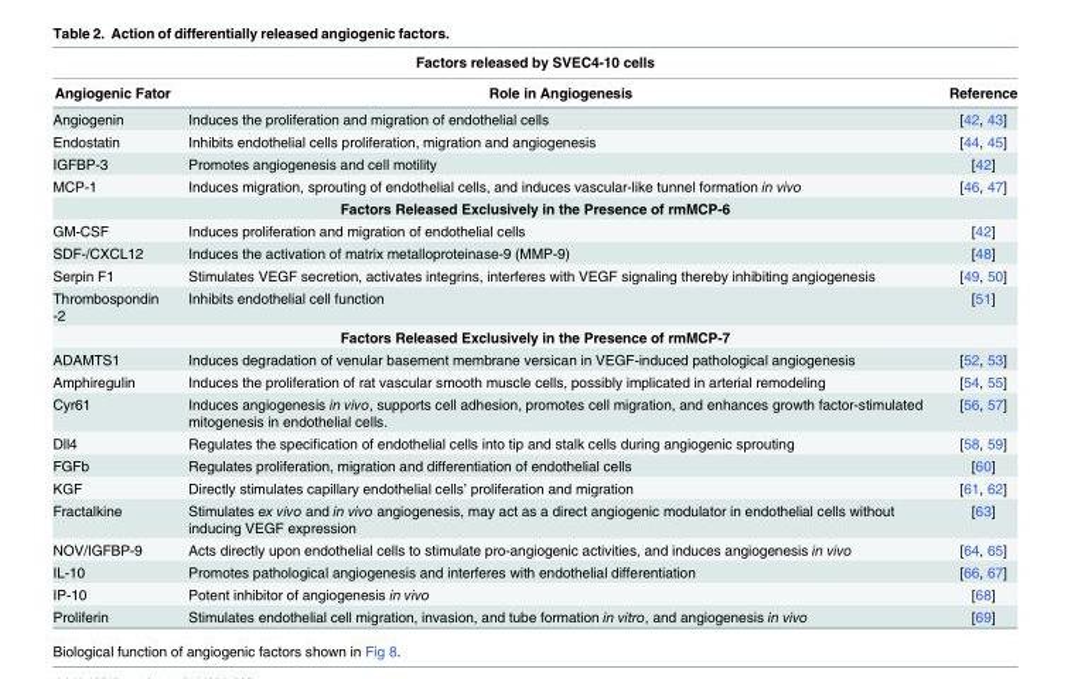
<table><thead><tr><td colspan="3">Factors released by SVEC4-10 cells</td></tr><tr><td>Angiogenic Fator</td><td>Role in Angiogenesis</td><td>Reference</td></tr></thead><tbody><tr><td>Angiogenin</td><td>Induces the proliferation and migration of endothelial cells</td><td>[42, 43]</td></tr><tr><td>Endostatin</td><td>Inhibits endothelial cells proliferation, migration and angiogenesis</td><td>[44, 45]</td></tr><tr><td>IGFBP-3</td><td>Promotes angiogenesis and cell motility</td><td>[42]</td></tr><tr><td>MCP-1</td><td>Induces migration, sprouting of endothelial cells, and induces vascular-like tunnel formation in vivo</td><td>[46, 47]</td></tr><tr><td colspan="3">Factors Released Exclusively in the Presence of rmMCP-6</td></tr><tr><td>GM-CSF</td><td>Induces proliferation and migration of endothelial cells</td><td>[42]</td></tr><tr><td>SDF-/CXCL12</td><td>Induces the activation of matrix metalloproteinase-9 (MMP-9)</td><td>[48]</td></tr><tr><td>Serpin F1</td><td>Stimulates VEGF secretion, activates integrins, interferes with VEGF signaling thereby inhibiting angiogenesis</td><td>[49, 50]</td></tr><tr><td>Thrombospondin -2</td><td>Inhibits endothelial cell function</td><td>[51]</td></tr><tr><td colspan="3">Factors Released Exclusively in the Presence of rmMCP-7</td></tr><tr><td>ADAMTS1</td><td>Induces degradation of venular basement membrane versican in VEGF-induced pathological angiogenesis</td><td>[52, 53]</td></tr><tr><td>Amphiregulin</td><td>Induces the proliferation of rat vascular smooth muscle cells, possibly implicated in arterial remodeling</td><td>[54, 55]</td></tr><tr><td>Cyr61</td><td>Induces angiogenesis in vivo, supports cell adhesion, promotes cell migration, and enhances growth factor-stimulated mitogenesis in endothelial cells.</td><td>[56, 57]</td></tr><tr><td>Dll4</td><td>Regulates the specification of endothelial cells into tip and stalk cells during angiogenic sprouting</td><td>[58, 59]</td></tr><tr><td>FGFb</td><td>Regulates proliferation, migration and differentiation of endothelial cells</td><td>[60]</td></tr><tr><td>KGF</td><td>Directly stimulates capillary endothelial cells’ proliferation and migration</td><td>[61, 62]</td></tr><tr><td>Fractalkine</td><td>Stimulates ex vivo and in vivo angiogenesis, may act as a direct angiogenic modulator in endothelial cells without inducing VEGF expression</td><td>[63]</td></tr><tr><td>NOV/IGFBP-9</td><td>Acts directly upon endothelial cells to stimulate pro-angiogenic activities, and induces angiogenesis in vivo</td><td>[64, 65]</td></tr><tr><td>IL-10</td><td>Promotes pathological angiogenesis and interferes with endothelial differentiation</td><td>[66, 67]</td></tr><tr><td>IP-10</td><td>Potent inhibitor of angiogenesis in vivo</td><td>[68]</td></tr><tr><td>Proliferin</td><td>Stimulates endothelial cell migration, invasion, and tube formation in vitro, and angiogenesis in vivo</td><td>[69]</td></tr></tbody></table>